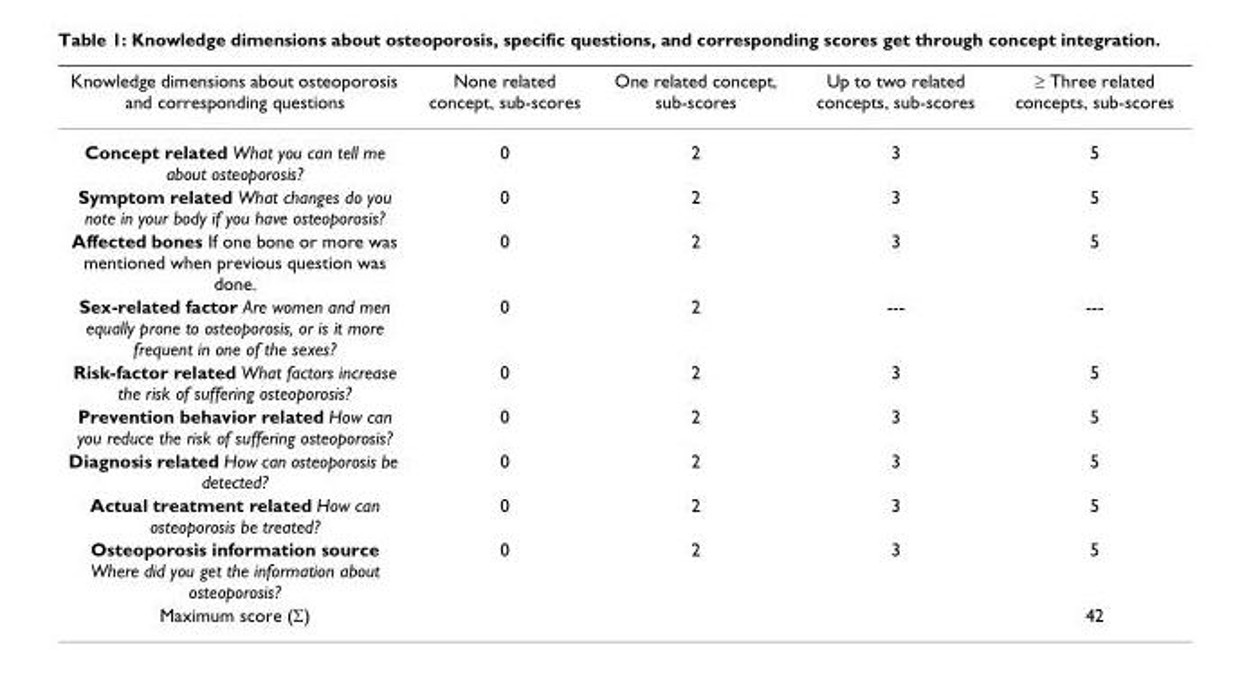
<table><thead><tr><td>Knowledge dimensions about osteoporosis and corresponding questions</td><td>None related concept, sub-scores</td><td>One related concept, sub-scores</td><td>Up to two related concepts, sub-scores</td><td>≥ Three related concepts, sub-scores</td></tr></thead><tbody><tr><td>Concept related What you can tell me about osteoporosis?</td><td>0</td><td>2</td><td>3</td><td>5</td></tr><tr><td>Symptom related What changes do you note in your body if you have osteoporosis?</td><td>0</td><td>2</td><td>3</td><td>5</td></tr><tr><td>Affected bones If one bone or more was mentioned when previous question was done.</td><td>0</td><td>2</td><td>3</td><td>5</td></tr><tr><td>Sex-related factor Are women and men equally prone to osteoporosis, or is it more frequent in one of the sexes?</td><td>0</td><td>2</td><td>---</td><td>---</td></tr><tr><td>Risk-factor related What factors increase the risk of suffering osteoporosis?</td><td>0</td><td>2</td><td>3</td><td>5</td></tr><tr><td>Prevention behavior related How can you reduce the risk of suffering osteoporosis?</td><td>0</td><td>2</td><td>3</td><td>5</td></tr><tr><td>Diagnosis related How can osteoporosis be detected?</td><td>0</td><td>2</td><td>3</td><td>5</td></tr><tr><td>Actual treatment related How can osteoporosis be treated?</td><td>0</td><td>2</td><td>3</td><td>5</td></tr><tr><td>Osteoporosis information source Where did you get the information about osteoporosis?</td><td>0</td><td>2</td><td>3</td><td>5</td></tr><tr><td>Maximum score (Σ)</td><td></td><td></td><td></td><td>42</td></tr></tbody></table>